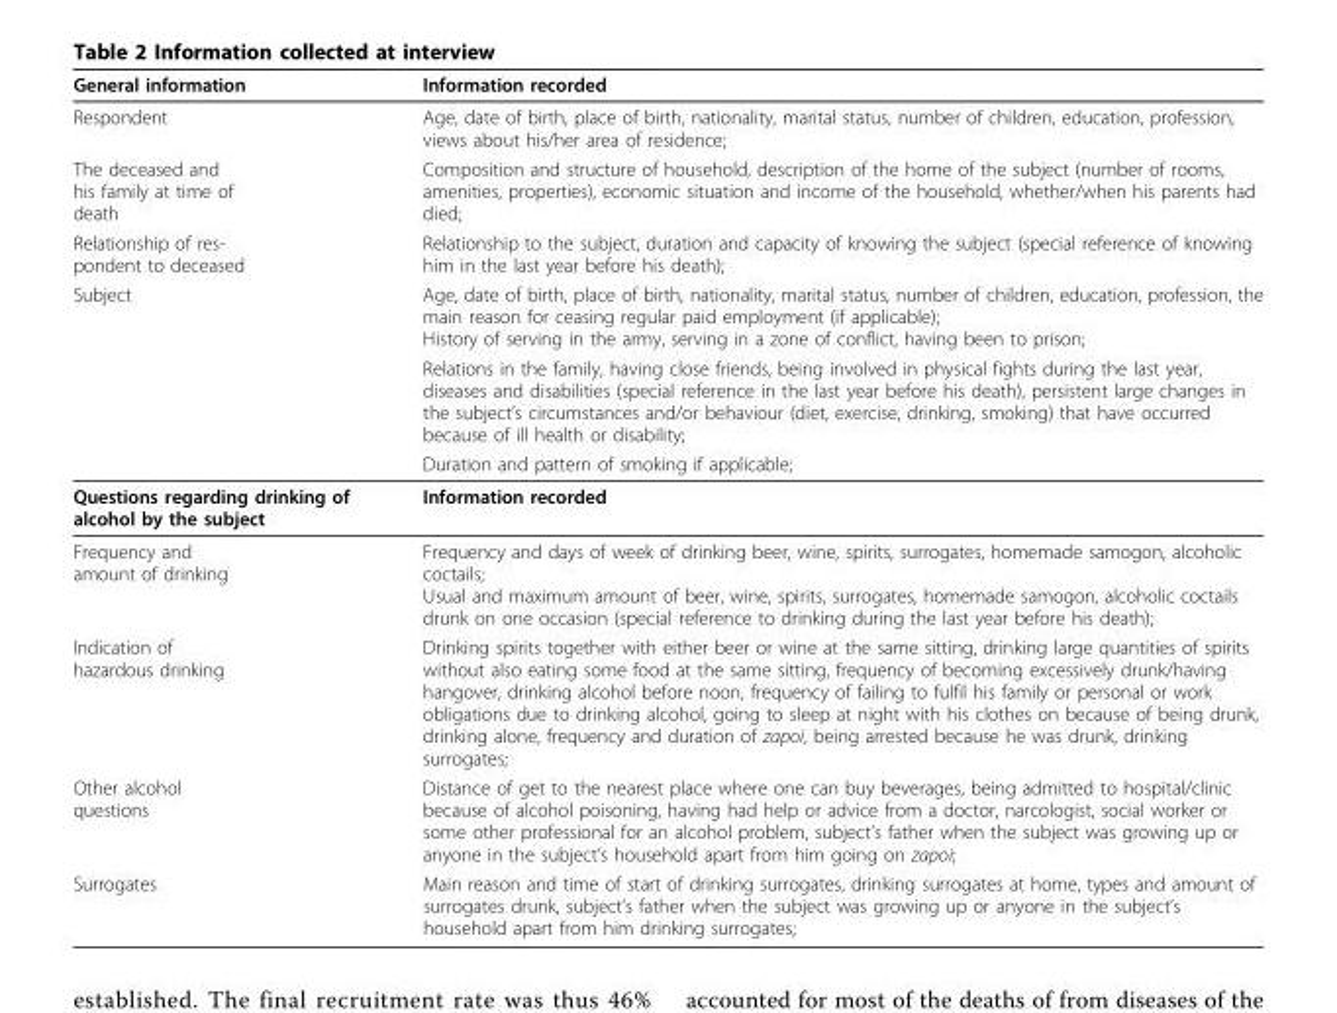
<table><thead><tr><td>General information</td><td>Information recorded</td></tr></thead><tbody><tr><td>Respondent</td><td>Age, date of birth, place of birth, nationality, marital status, number of children, education, profession, views about his/her area of residence;</td></tr><tr><td>The deceased and his family at time of death</td><td>Composition and structure of household, description of the home of the subject (number of rooms, amenities, properties), economic situation and income of the household, whether/when his parents had died;</td></tr><tr><td>Relationship of res- pondent to deceased</td><td>Relationship to the subject, duration and capacity of knowing the subject (special reference of knowing him in the last year before his death);</td></tr><tr><td rowspan="3">Subject</td><td>Age, date of birth, place of birth, nationality, marital status, number of children, education, profession, the main reason for ceasing regular paid employment (if applicable); History of serving in the army, serving in a zone of conflict, having been to prison;</td></tr><tr><td>Relations in the family, having close friends, being involved in physical fights during the last year, diseases and disabilities (special reference in the last year before his death), persistent large changes in the subject’s circumstances and/or behaviour (diet, exercise, drinking, smoking) that have occurred because of ill health or disability;</td></tr><tr><td>Duration and pattern of smoking if applicable;</td></tr><tr><td>Questions regarding drinking of alcohol by the subject</td><td>Information recorded</td></tr><tr><td>Frequency and amount of drinking</td><td>Frequency and days of week of drinking beer, wine, spirits, surrogates, homemade samogon, alcoholic coctails; Usual and maximum amount of beer, wine, spirits, surrogates, homemade samogon, alcoholic coctails drunk on one occasion (special reference to drinking during the last year before his death);</td></tr><tr><td>Indication of hazardous drinking</td><td>Drinking spirits together with either beer or wine at the same sitting, drinking large quantities of spirits without also eating some food at the same sitting, frequency of becoming excessively drunk/having hangover, drinking alcohol before noon, frequency of failing to fulfil his family or personal or work obligations due to drinking alcohol, going to sleep at night with his clothes on because of being drunk, drinking alone, frequency and duration of zapoi, being arrested because he was drunk, drinking surrogates;</td></tr><tr><td>Other alcohol questions</td><td>Distance of get to the nearest place where one can buy beverages, being admitted to hospital/clinic because of alcohol poisoning, having had help or advice from a doctor, narcologist, social worker or some other professional for an alcohol problem, subject’s father when the subject was growing up or anyone in the subject’s household apart from him going on zapoi;</td></tr><tr><td>Surrogates</td><td>Main reason and time of start of drinking surrogates, drinking surrogates at home, types and amount of surrogates drunk, subject’s father when the subject was growing up or anyone in the subject’s household apart from him drinking surrogates;</td></tr></tbody></table>